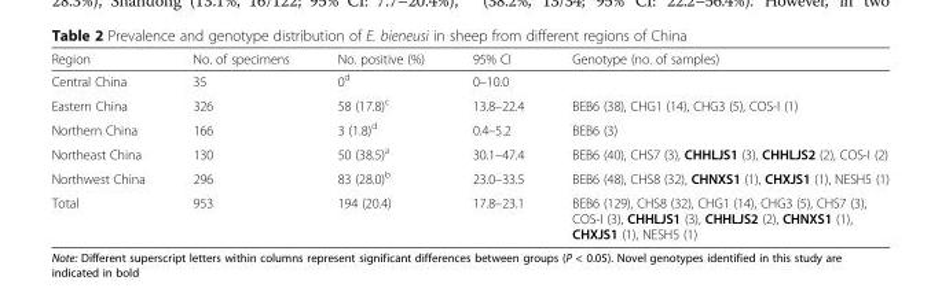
<table><thead><tr><td>Region</td><td>No. of specimens</td><td>No. positive (%)</td><td>95% CI</td><td>Genotype (no. of samples)</td></tr></thead><tbody><tr><td>Central China</td><td>35</td><td>0<sup>d</sup></td><td>0–10.0</td><td></td></tr><tr><td>Eastern China</td><td>326</td><td>58 (17.8)<sup>c</sup></td><td>13.8–22.4</td><td>BEB6 (38), CHG1 (14), CHG3 (5), COS-I (1)</td></tr><tr><td>Northern China</td><td>166</td><td>3 (1.8)<sup>d</sup></td><td>0.4–5.2</td><td>BEB6 (3)</td></tr><tr><td>Northeast China</td><td>130</td><td>50 (38.5)<sup>a</sup></td><td>30.1–47.4</td><td>BEB6 (40), CHS7 (3), CHHLJS1 (3), CHHLJS2 (2), COS-I (2)</td></tr><tr><td>Northwest China</td><td>296</td><td>83 (28.0)<sup>b</sup></td><td>23.0–33.5</td><td>BEB6 (48), CHS8 (32), CHNXS1 (1), CHXJS1 (1), NESH5 (1)</td></tr><tr><td>Total</td><td>953</td><td>194 (20.4)</td><td>17.8–23.1</td><td>BEB6 (129), CHS8 (32), CHG1 (14), CHG3 (5), CHS7 (3), COS-I (3), CHHLJS1 (3), CHHLJS2 (2), CHNXS1 (1), CHXJS1 (1), NESH5 (1)</td></tr></tbody></table>